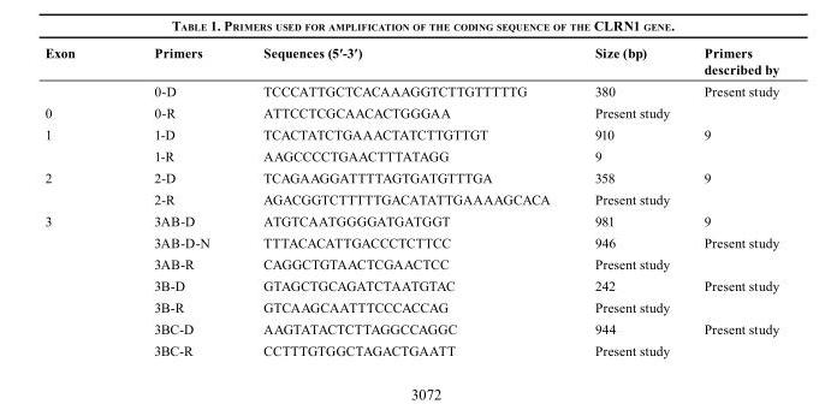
<table><thead><tr><td>Exon</td><td>Primers</td><td>Sequences (5′-3′)</td><td>Size (bp)</td><td>Primers described by</td></tr></thead><tbody><tr><td></td><td>0-D</td><td>TCCCATTGCTCACAAAGGTCTTGTTTTTG</td><td>380</td><td>Present study</td></tr><tr><td>0</td><td>0-R</td><td>ATTCCTCGCAACACTGGGAA</td><td>Present study</td><td></td></tr><tr><td rowspan="2">1</td><td>1-D</td><td>TCACTATCTGAAACTATCTTGTTGT</td><td>910</td><td>9</td></tr><tr><td>1-R</td><td>AAGCCCCTGAACTTTATAGG</td><td>9</td><td></td></tr><tr><td rowspan="2">2</td><td>2-D</td><td>TCAGAAGGATTTTAGTGATGTTTGA</td><td>358</td><td>9</td></tr><tr><td>2-R</td><td>AGACGGTCTTTTTGACATATTGAAAAGCACA</td><td>Present study</td><td></td></tr><tr><td rowspan="7">3</td><td>3AB-D</td><td>ATGTCAATGGGGATGATGGT</td><td>981</td><td>9</td></tr><tr><td>3AB-D-N</td><td>TTTACACATTGACCCTCTTCC</td><td>946</td><td>Present study</td></tr><tr><td>3AB-R</td><td>CAGGCTGTAACTCGAACTCC</td><td>Present study</td><td></td></tr><tr><td>3B-D</td><td>GTAGCTGCAGATCTAATGTAC</td><td>242</td><td>Present study</td></tr><tr><td>3B-R</td><td>GTCAAGCAATTTCCCACCAG</td><td>Present study</td><td></td></tr><tr><td>3BC-D</td><td>AAGTATACTCTTAGGCCAGGC</td><td>944</td><td>Present study</td></tr><tr><td>3BC-R</td><td>CCTTTGTGGCTAGACTGAATT</td><td>Present study</td><td></td></tr></tbody></table>